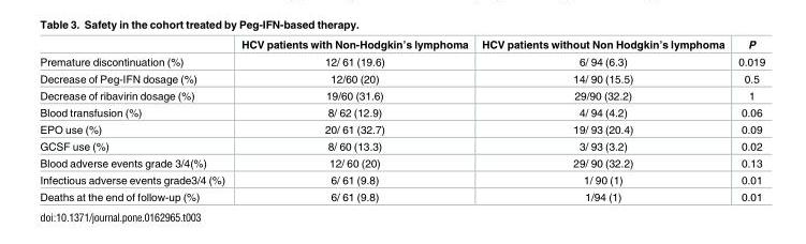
<table><thead><tr><td></td><td>HCV patients with Non-Hodgkin’s lymphoma</td><td>HCV patients without Non Hodgkin’s lymphoma</td><td>P</td></tr></thead><tbody><tr><td>Premature discontinuation (%)</td><td>12/ 61 (19.6)</td><td>6/ 94 (6.3)</td><td>0.019</td></tr><tr><td>Decrease of Peg-IFN dosage (%)</td><td>12/60 (20)</td><td>14/ 90 (15.5)</td><td>0.5</td></tr><tr><td>Decrease of ribavirin dosage (%)</td><td>19/60 (31.6)</td><td>29/90 (32.2)</td><td>1</td></tr><tr><td>Blood transfusion (%)</td><td>8/ 62 (12.9)</td><td>4/ 94 (4.2)</td><td>0.06</td></tr><tr><td>EPO use (%)</td><td>20/ 61 (32.7)</td><td>19/ 93 (20.4)</td><td>0.09</td></tr><tr><td>GCSF use (%)</td><td>8/ 60 (13.3)</td><td>3/ 93 (3.2)</td><td>0.02</td></tr><tr><td>Blood adverse events grade 3/4(%)</td><td>12/ 60 (20)</td><td>29/ 90 (32.2)</td><td>0.13</td></tr><tr><td>Infectious adverse events grade3/4 (%)</td><td>6/ 61 (9.8)</td><td>1/ 90 (1)</td><td>0.01</td></tr><tr><td>Deaths at the end of follow-up (%)</td><td>6/ 61 (9.8)</td><td>1/94 (1)</td><td>0.01</td></tr></tbody></table>